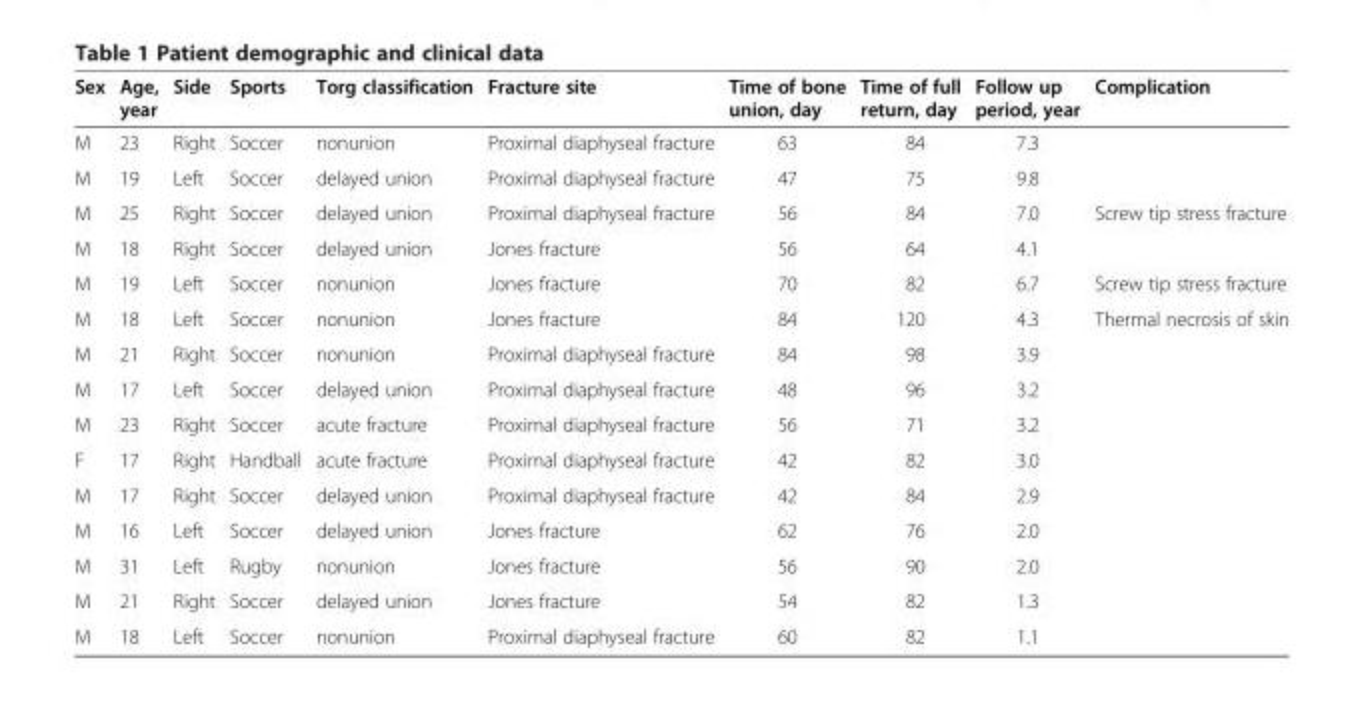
<table><thead><tr><td>Sex</td><td>Age, year</td><td>Side</td><td>Sports</td><td>Torg classification</td><td>Fracture site</td><td>Time of bone union, day</td><td>Time of full return, day</td><td>Follow up period, year</td><td>Complication</td></tr></thead><tbody><tr><td>M</td><td>23</td><td>Right</td><td>Soccer</td><td>nonunion</td><td>Proximal diaphyseal fracture</td><td>63</td><td>84</td><td>7.3</td><td></td></tr><tr><td>M</td><td>19</td><td>Left</td><td>Soccer</td><td>delayed union</td><td>Proximal diaphyseal fracture</td><td>47</td><td>75</td><td>9.8</td><td></td></tr><tr><td>M</td><td>25</td><td>Right</td><td>Soccer</td><td>delayed union</td><td>Proximal diaphyseal fracture</td><td>56</td><td>84</td><td>7.0</td><td>Screw tip stress fracture</td></tr><tr><td>M</td><td>18</td><td>Right</td><td>Soccer</td><td>delayed union</td><td>Jones fracture</td><td>56</td><td>64</td><td>4.1</td><td></td></tr><tr><td>M</td><td>19</td><td>Left</td><td>Soccer</td><td>nonunion</td><td>Jones fracture</td><td>70</td><td>82</td><td>6.7</td><td>Screw tip stress fracture</td></tr><tr><td>M</td><td>18</td><td>Left</td><td>Soccer</td><td>nonunion</td><td>Jones fracture</td><td>84</td><td>120</td><td>4.3</td><td>Thermal necrosis of skin</td></tr><tr><td>M</td><td>21</td><td>Right</td><td>Soccer</td><td>nonunion</td><td>Proximal diaphyseal fracture</td><td>84</td><td>98</td><td>3.9</td><td></td></tr><tr><td>M</td><td>17</td><td>Left</td><td>Soccer</td><td>delayed union</td><td>Proximal diaphyseal fracture</td><td>48</td><td>96</td><td>3.2</td><td></td></tr><tr><td>M</td><td>23</td><td>Right</td><td>Soccer</td><td>acute fracture</td><td>Proximal diaphyseal fracture</td><td>56</td><td>71</td><td>3.2</td><td></td></tr><tr><td>F</td><td>17</td><td>Right</td><td>Handball</td><td>acute fracture</td><td>Proximal diaphyseal fracture</td><td>42</td><td>82</td><td>3.0</td><td></td></tr><tr><td>M</td><td>17</td><td>Right</td><td>Soccer</td><td>delayed union</td><td>Proximal diaphyseal fracture</td><td>42</td><td>84</td><td>2.9</td><td></td></tr><tr><td>M</td><td>16</td><td>Left</td><td>Soccer</td><td>delayed union</td><td>Jones fracture</td><td>62</td><td>76</td><td>2.0</td><td></td></tr><tr><td>M</td><td>31</td><td>Left</td><td>Rugby</td><td>nonunion</td><td>Jones fracture</td><td>56</td><td>90</td><td>2.0</td><td></td></tr><tr><td>M</td><td>21</td><td>Right</td><td>Soccer</td><td>delayed union</td><td>Jones fracture</td><td>54</td><td>82</td><td>1.3</td><td></td></tr><tr><td>M</td><td>18</td><td>Left</td><td>Soccer</td><td>nonunion</td><td>Proximal diaphyseal fracture</td><td>60</td><td>82</td><td>1.1</td><td></td></tr></tbody></table>